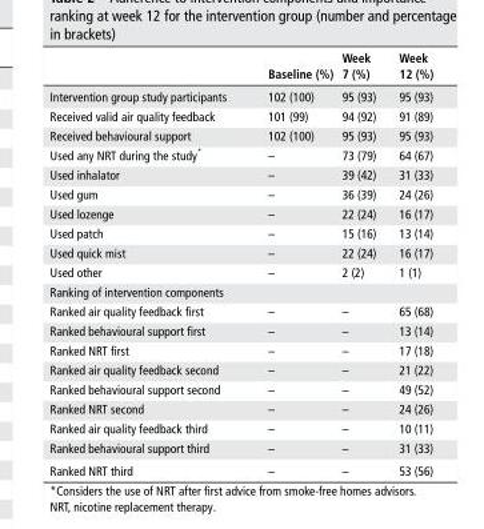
<table><thead><tr><td></td><td>baseline (%)</td><td>Week 7 (%)</td><td>Week 12 (%)</td></tr></thead><tbody><tr><td>Intervention group study participants</td><td>102 (100)</td><td>95 (93)</td><td>95 (93)</td></tr><tr><td>Received valid air quality feedback</td><td>101 (99)</td><td>94 (92)</td><td>91 (89)</td></tr><tr><td>Received behavioural support</td><td>102 (100)</td><td>95 (93)</td><td>95 (93)</td></tr><tr><td>Used any NRT during the study*</td><td>–</td><td>73 (79)</td><td>64 (67)</td></tr><tr><td>Used inhalator</td><td>–</td><td>39 (42)</td><td>31 (33)</td></tr><tr><td>Used gum</td><td>–</td><td>36 (39)</td><td>24 (26)</td></tr><tr><td>Used lozenge</td><td>–</td><td>22 (24)</td><td>16 (17)</td></tr><tr><td>Used patch</td><td>–</td><td>15 (16)</td><td>13 (14)</td></tr><tr><td>Used quick mist</td><td>–</td><td>22 (24)</td><td>16 (17)</td></tr><tr><td>Used other</td><td>–</td><td>2 (2)</td><td>1 (1)</td></tr><tr><td colspan="4">Ranking of intervention components</td></tr><tr><td>Ranked air quality feedback first</td><td>–</td><td>–</td><td>65 (68)</td></tr><tr><td>Ranked behavioural support first</td><td>–</td><td>–</td><td>13 (14)</td></tr><tr><td>Ranked NRT first</td><td>–</td><td>–</td><td>17 (18)</td></tr><tr><td>Ranked air quality feedback second</td><td>–</td><td>–</td><td>21 (22)</td></tr><tr><td>Ranked behavioural support second</td><td>–</td><td>–</td><td>49 (52)</td></tr><tr><td>Ranked NRT second</td><td>–</td><td>–</td><td>24 (26)</td></tr><tr><td>Ranked air quality feedback third</td><td>–</td><td>–</td><td>10 (11)</td></tr><tr><td>Ranked behavioural support third</td><td>–</td><td>–</td><td>31 (33)</td></tr><tr><td>Ranked NRT third</td><td>–</td><td>–</td><td>53 (56)</td></tr></tbody></table>